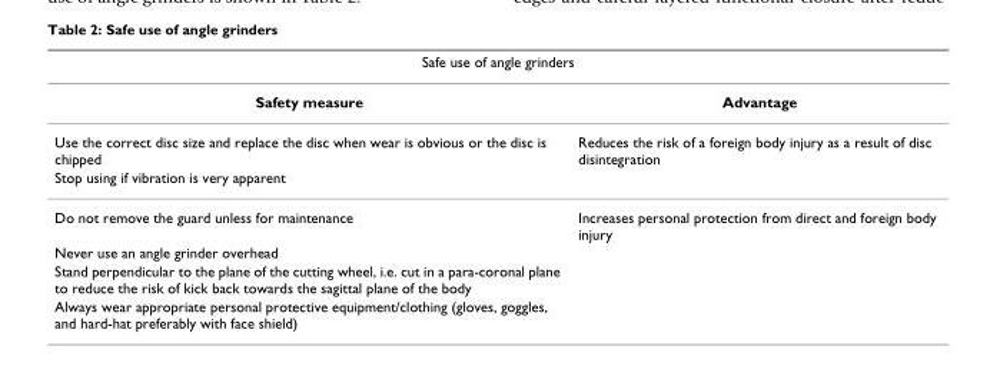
<table><thead><tr><td colspan="2">Safe use of angle grinders</td></tr><tr><td>Safety measure</td><td>Advantage</td></tr></thead><tbody><tr><td>Use the correct disc size and replace the disc when wear is obvious or the disc is chipped</td><td>Reduces the risk of a foreign body injury as a result of disc disintegration</td></tr><tr><td colspan="2">Stop using if vibration is very apparent</td></tr><tr><td>Do not remove the guard unless for maintenance</td><td>Increases personal protection from direct and foreign body injury</td></tr><tr><td colspan="2">Never use an angle grinder overhead</td></tr><tr><td colspan="2">Stand perpendicular to the plane of the cutting wheel, i.e. cut in a para-coronal plane to reduce the risk of kick back towards the sagittal plane of the body</td></tr><tr><td>Always wear appropriate personal protective equipment/clothing (gloves, goggles, and hard-hat preferably with face shield)</td><td></td></tr></tbody></table>